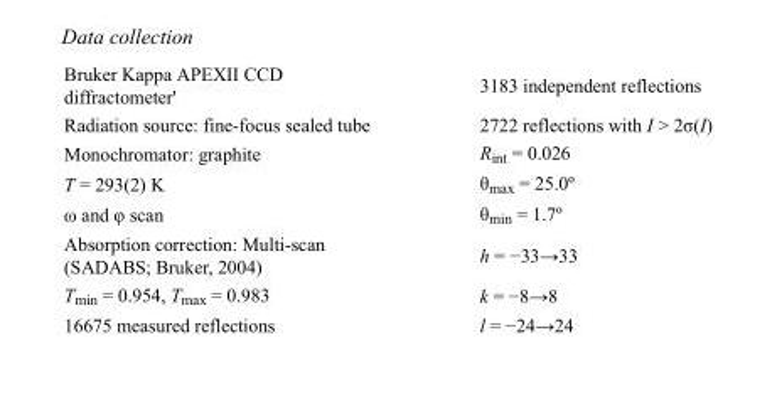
<table><tbody><tr><td>Bruker Kappa APEXII CCD diffractometer&#x27;</td><td>3183 independent reflections</td></tr><tr><td>Radiation source: fine-focus sealed tube</td><td>2722 reflections with I &gt; 2σ(I)</td></tr><tr><td>Monochromator: graphite</td><td>R<sub>int</sub> = 0.026</td></tr><tr><td>T = 293(2) K</td><td>θ<sub>max</sub> = 25.0º</td></tr><tr><td>ω and φ scan</td><td>θ<sub>min</sub> = 1.7º</td></tr><tr><td>Absorption correction: Multi-scan (SADABS; Bruker, 2004)</td><td>h = −33→33</td></tr><tr><td>T<sub>min</sub> = 0.954, T<sub>max</sub> = 0.983</td><td>k = −8→8</td></tr><tr><td>16675 measured reflections</td><td>l = −24→24</td></tr></tbody></table>